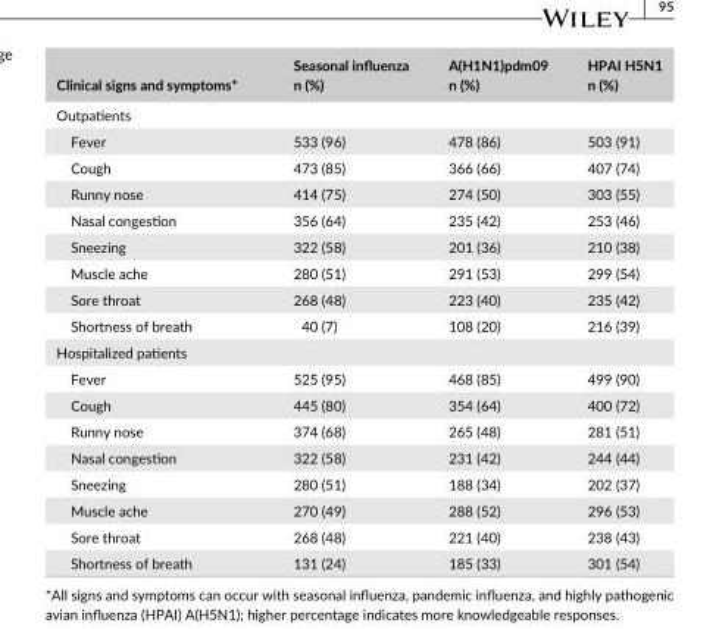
<table><thead><tr><td>Clinical signs and symptoms*</td><td>Seasonal influenza n (%)</td><td>A(H1N1)pdm09 n (%)</td><td>HPAI H5N1 n (%)</td></tr></thead><tbody><tr><td colspan="4">Outpatients</td></tr><tr><td>Fever</td><td>533 (96)</td><td>478 (86)</td><td>503 (91)</td></tr><tr><td>Cough</td><td>473 (85)</td><td>366 (66)</td><td>407 (74)</td></tr><tr><td>Runny nose</td><td>414 (75)</td><td>274 (50)</td><td>303 (55)</td></tr><tr><td>Nasal congestion</td><td>356 (64)</td><td>235 (42)</td><td>253 (46)</td></tr><tr><td>Sneezing</td><td>322 (58)</td><td>201 (36)</td><td>210 (38)</td></tr><tr><td>Muscle ache</td><td>280 (51)</td><td>291 (53)</td><td>299 (54)</td></tr><tr><td>Sore throat</td><td>268 (48)</td><td>223 (40)</td><td>235 (42)</td></tr><tr><td>Shortness of breath</td><td>40 (7)</td><td>108 (20)</td><td>216 (39)</td></tr><tr><td colspan="4">Hospitalized patients</td></tr><tr><td>Fever</td><td>525 (95)</td><td>468 (85)</td><td>499 (90)</td></tr><tr><td>Cough</td><td>445 (80)</td><td>354 (64)</td><td>400 (72)</td></tr><tr><td>Runny nose</td><td>374 (68)</td><td>265 (48)</td><td>281 (51)</td></tr><tr><td>Nasal congestion</td><td>322 (58)</td><td>231 (42)</td><td>244 (44)</td></tr><tr><td>Sneezing</td><td>280 (51)</td><td>188 (34)</td><td>202 (37)</td></tr><tr><td>Muscle ache</td><td>270 (49)</td><td>288 (52)</td><td>296 (53)</td></tr><tr><td>Sore throat</td><td>268 (48)</td><td>221 (40)</td><td>238 (43)</td></tr><tr><td>Shortness of breath</td><td>131 (24)</td><td>185 (33)</td><td>301 (54)</td></tr></tbody></table>